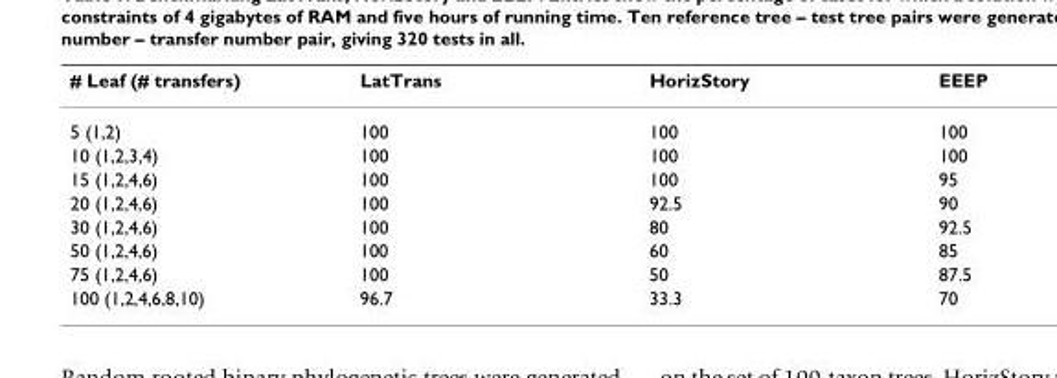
<table><thead><tr><td># Leaf (# transfers)</td><td>LatTrans</td><td>HorizStory</td><td>EEEP</td></tr></thead><tbody><tr><td>5 (1,2)</td><td>100</td><td>100</td><td>100</td></tr><tr><td>10 (1,2,3,4)</td><td>100</td><td>100</td><td>100</td></tr><tr><td>15 (1,2,4,6)</td><td>100</td><td>100</td><td>95</td></tr><tr><td>20 (1,2,4,6)</td><td>100</td><td>92.5</td><td>90</td></tr><tr><td>30 (1,2,4,6)</td><td>100</td><td>80</td><td>92.5</td></tr><tr><td>50 (1,2,4,6)</td><td>100</td><td>60</td><td>85</td></tr><tr><td>75 (1,2,4,6)</td><td>100</td><td>50</td><td>87.5</td></tr><tr><td>100 (1,2,4,6,8,10)</td><td>96.7</td><td>33.3</td><td>70</td></tr></tbody></table>